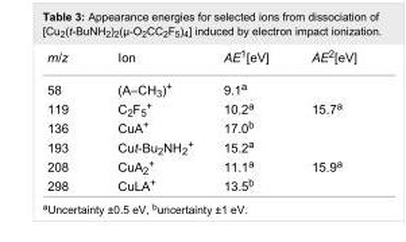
<table><tbody><tr><td>m/z</td><td>Ion</td><td>AE<sup>1</sup>[eV]</td><td>AE<sup>2</sup>[eV]</td></tr><tr><td>58</td><td>(A–CH<sub>3</sub>)<sup>+</sup></td><td>9.1<sup>a</sup></td><td></td></tr><tr><td>119</td><td>C<sub>2</sub>F<sub>5</sub><sup>+</sup></td><td>10.2<sup>a</sup></td><td>15.7<sup>a</sup></td></tr><tr><td>136</td><td>CuA<sup>+</sup></td><td>17.0<sup>b</sup></td><td></td></tr><tr><td>193</td><td>Cut-Bu<sub>2</sub>NH<sub>2</sub><sup>+</sup></td><td>15.2<sup>a</sup></td><td></td></tr><tr><td>208</td><td>CuA<sub>2</sub><sup>+</sup></td><td>11.1<sup>a</sup></td><td>15.9<sup>a</sup></td></tr><tr><td>298</td><td>CuLA<sup>+</sup></td><td>13.5<sup>b</sup></td><td></td></tr></tbody></table>